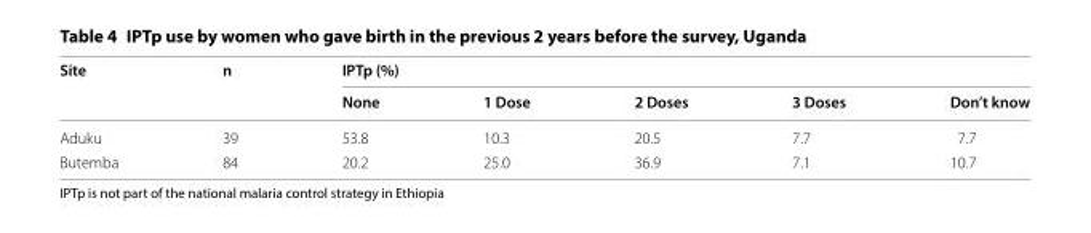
<table><thead><tr><td rowspan="2">Site</td><td rowspan="2">n</td><td colspan="5">IPTp (%)</td></tr><tr><td>None</td><td>1 Dose</td><td>2 Doses</td><td>3 Doses</td><td>Don’t know</td></tr></thead><tbody><tr><td>Aduku</td><td>39</td><td>53.8</td><td>10.3</td><td>20.5</td><td>7.7</td><td>7.7</td></tr><tr><td>Butemba</td><td>84</td><td>20.2</td><td>25.0</td><td>36.9</td><td>7.1</td><td>10.7</td></tr></tbody></table>